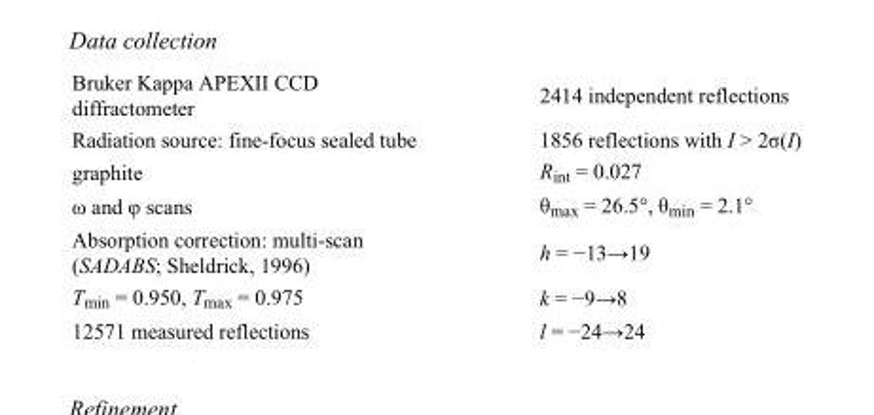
<table><tbody><tr><td>Bruker Kappa APEXII CCD diffractometer</td><td>2414 independent reflections</td></tr><tr><td>Radiation source: fine-focus sealed tube</td><td>1856 reflections with I &gt; 2σ(I)</td></tr><tr><td>graphite</td><td>R<sub>int</sub> = 0.027</td></tr><tr><td>ω and φ scans</td><td>θ<sub>max</sub> = 26.5°, θ<sub>min</sub> = 2.1°</td></tr><tr><td>Absorption correction: multi-scan (SADABS; Sheldrick, 1996)</td><td>h = −13→19</td></tr><tr><td>T<sub>min</sub> = 0.950, T<sub>max</sub> = 0.975</td><td>k = −9→8</td></tr><tr><td>12571 measured reflections</td><td>l = −24→24</td></tr></tbody></table>